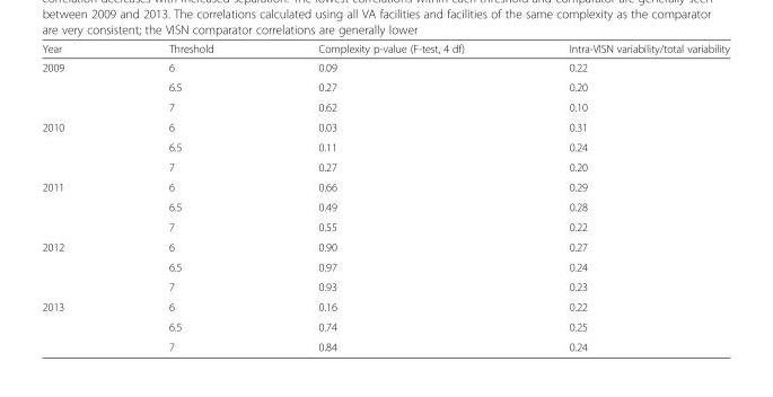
<table><thead><tr><td>Year</td><td>Threshold</td><td>Complexity p-value (F-test, 4 df)</td><td>Intra-VISN variability/total variability</td></tr></thead><tbody><tr><td rowspan="3">2009</td><td>6</td><td>0.09</td><td>0.22</td></tr><tr><td>6.5</td><td>0.27</td><td>0.20</td></tr><tr><td>7</td><td>0.62</td><td>0.10</td></tr><tr><td rowspan="3">2010</td><td>6</td><td>0.03</td><td>0.31</td></tr><tr><td>6.5</td><td>0.11</td><td>0.24</td></tr><tr><td>7</td><td>0.27</td><td>0.20</td></tr><tr><td rowspan="3">2011</td><td>6</td><td>0.66</td><td>0.29</td></tr><tr><td>6.5</td><td>0.49</td><td>0.28</td></tr><tr><td>7</td><td>0.55</td><td>0.22</td></tr><tr><td rowspan="3">2012</td><td>6</td><td>0.90</td><td>0.27</td></tr><tr><td>6.5</td><td>0.97</td><td>0.24</td></tr><tr><td>7</td><td>0.93</td><td>0.23</td></tr><tr><td rowspan="3">2013</td><td>6</td><td>0.16</td><td>0.22</td></tr><tr><td>6.5</td><td>0.74</td><td>0.25</td></tr><tr><td>7</td><td>0.84</td><td>0.24</td></tr></tbody></table>